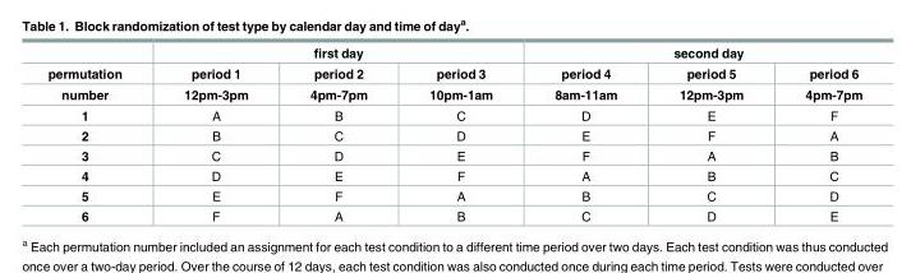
<table><thead><tr><td rowspan="3">permutation number</td><td colspan="3">first day</td><td colspan="3">second day</td></tr><tr><td rowspan="2">period 1 12pm-3pm</td><td rowspan="2">period 2 4pm-7pm</td><td rowspan="2">period 3 10pm-1am</td><td rowspan="2">period 4 8am-11am</td><td rowspan="2">period 5 12pm-3pm</td><td rowspan="2">period 6 4pm-7pm</td></tr><tr></tr></thead><tbody><tr><td>1</td><td>A</td><td>B</td><td>C</td><td>D</td><td>E</td><td>F</td></tr><tr><td>2</td><td>B</td><td>C</td><td>D</td><td>E</td><td>F</td><td>A</td></tr><tr><td>3</td><td>C</td><td>D</td><td>E</td><td>F</td><td>A</td><td>B</td></tr><tr><td>4</td><td>D</td><td>E</td><td>F</td><td>A</td><td>B</td><td>C</td></tr><tr><td>5</td><td>E</td><td>F</td><td>A</td><td>B</td><td>C</td><td>D</td></tr><tr><td>6</td><td>F</td><td>A</td><td>B</td><td>C</td><td>D</td><td>E</td></tr></tbody></table>